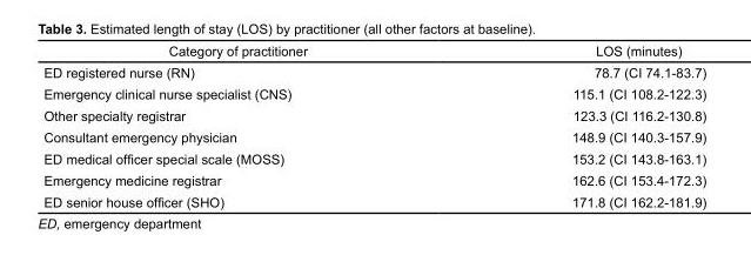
<table><thead><tr><td>Category of practitioner</td><td>LOS (minutes)</td></tr></thead><tbody><tr><td>ED registered nurse (RN)</td><td>78.7 (CI 74.1-83.7)</td></tr><tr><td>Emergency clinical nurse specialist (CNS)</td><td>115.1 (CI 108.2-122.3)</td></tr><tr><td>Other specialty registrar</td><td>123.3 (CI 116.2-130.8)</td></tr><tr><td>Consultant emergency physician</td><td>148.9 (CI 140.3-157.9)</td></tr><tr><td>ED medical officer special scale (MOSS)</td><td>153.2 (CI 143.8-163.1)</td></tr><tr><td>Emergency medicine registrar</td><td>162.6 (CI 153.4-172.3)</td></tr><tr><td>ED senior house officer (SHO)</td><td>171.8 (CI 162.2-181.9)</td></tr></tbody></table>